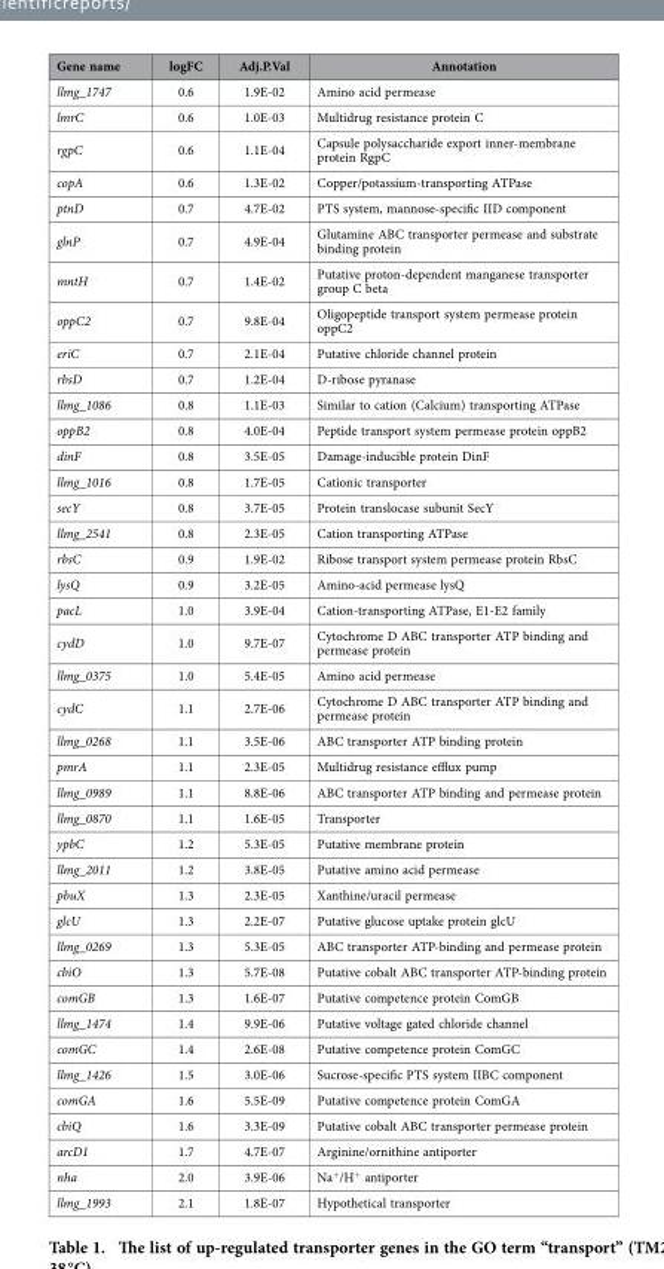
<table><thead><tr><td>Gene name</td><td>logFC</td><td>Adj.P.Val</td><td>Annotation</td></tr></thead><tbody><tr><td>llmg_1747</td><td>0.6</td><td>1.9E-02</td><td>Amino acid permease</td></tr><tr><td>lmrC</td><td>0.6</td><td>1.0E-03</td><td>Multidrug resistance protein C</td></tr><tr><td>rgpC</td><td>0.6</td><td>1.1E-04</td><td>Capsule polysaccharide export inner-membrane protein RgpC</td></tr><tr><td>copA</td><td>0.6</td><td>1.3E-02</td><td>Copper/potassium-transporting ATPase</td></tr><tr><td>ptnD</td><td>0.7</td><td>4.7E-02</td><td>PTS system, mannose-specific IID component</td></tr><tr><td>glnP</td><td>0.7</td><td>4.9E-04</td><td>Glutamine ABC transporter permease and substrate binding protein</td></tr><tr><td>mntH</td><td>0.7</td><td>1.4E-02</td><td>Putative proton-dependent manganese transporter group C beta</td></tr><tr><td>oppC2</td><td>0.7</td><td>9.8E-04</td><td>Oligopeptide transport system permease protein oppC2</td></tr><tr><td>eriC</td><td>0.7</td><td>2.1E-04</td><td>Putative chloride channel protein</td></tr><tr><td>rbsD</td><td>0.7</td><td>1.2E-04</td><td>D-ribose pyranase</td></tr><tr><td>llmg_1086</td><td>0.8</td><td>1.1E-03</td><td>Similar to cation (Calcium) transporting ATPase</td></tr><tr><td>oppB2</td><td>0.8</td><td>4.0E-04</td><td>Peptide transport system permease protein oppB2</td></tr><tr><td>dinF</td><td>0.8</td><td>3.5E-05</td><td>Damage-inducible protein DinF</td></tr><tr><td>llmg_1016</td><td>0.8</td><td>1.7E-05</td><td>Cationic transporter</td></tr><tr><td>secY</td><td>0.8</td><td>3.7E-05</td><td>Protein translocase subunit SecY</td></tr><tr><td>llmg_2541</td><td>0.8</td><td>2.3E-05</td><td>Cation transporting ATPase</td></tr><tr><td>rbsC</td><td>0.9</td><td>1.9E-02</td><td>Ribose transport system permease protein RbsC</td></tr><tr><td>lysQ</td><td>0.9</td><td>3.2E-05</td><td>Amino-acid permease lysQ</td></tr><tr><td>pacL</td><td>1.0</td><td>3.9E-04</td><td>Cation-transporting ATPase, E1-E2 family</td></tr><tr><td>cydD</td><td>1.0</td><td>9.7E-07</td><td>Cytochrome D ABC transporter ATP binding and permease protein</td></tr><tr><td>llmg_0375</td><td>1.0</td><td>5.4E-05</td><td>Amino acid permease</td></tr><tr><td>cydC</td><td>1.1</td><td>2.7E-06</td><td>Cytochrome D ABC transporter ATP binding and permease protein</td></tr><tr><td>llmg_0268</td><td>1.1</td><td>3.5E-06</td><td>ABC transporter ATP binding protein</td></tr><tr><td>pmrA</td><td>1.1</td><td>2.3E-05</td><td>Multidrug resistance efflux pump</td></tr><tr><td>llmg_0989</td><td>1.1</td><td>8.8E-06</td><td>ABC transporter ATP binding and permease protein</td></tr><tr><td>llmg_0870</td><td>1.1</td><td>1.6E-05</td><td>Transporter</td></tr><tr><td>ypbC</td><td>1.2</td><td>5.3E-05</td><td>Putative membrane protein</td></tr><tr><td>llmg_2011</td><td>1.2</td><td>3.8E-05</td><td>Putative amino acid permease</td></tr><tr><td>pbuX</td><td>1.3</td><td>2.3E-05</td><td>Xanthine/uracil permease</td></tr><tr><td>glcU</td><td>1.3</td><td>2.2E-07</td><td>Putative glucose uptake protein glcU</td></tr><tr><td>llmg_0269</td><td>1.3</td><td>5.3E-05</td><td>ABC transporter ATP-binding and permease protein</td></tr><tr><td>cbiO</td><td>1.3</td><td>5.7E-08</td><td>Putative cobalt ABC transporter ATP-binding protein</td></tr><tr><td>comGB</td><td>1.3</td><td>1.6E-07</td><td>Putative competence protein ComGB</td></tr><tr><td>llmg_1474</td><td>1.4</td><td>9.9E-06</td><td>Putative voltage gated chloride channel</td></tr><tr><td>comGC</td><td>1.4</td><td>2.6E-08</td><td>Putative competence protein ComGC</td></tr><tr><td>llmg_1426</td><td>1.5</td><td>3.0E-06</td><td>Sucrose-specific PTS system IIBC component</td></tr><tr><td>comGA</td><td>1.6</td><td>5.5E-09</td><td>Putative competence protein ComGA</td></tr><tr><td>cbiQ</td><td>1.6</td><td>3.3E-09</td><td>Putative cobalt ABC transporter permease protein</td></tr><tr><td>arcD1</td><td>1.7</td><td>4.7E-07</td><td>Arginine/ornithine antiporter</td></tr><tr><td>nha</td><td>2.0</td><td>3.9E-06</td><td>Na<sup>+</sup>/H<sup>+</sup> antiporter</td></tr><tr><td>llmg_1993</td><td>2.1</td><td>1.8E-07</td><td>Hypothetical transporter</td></tr></tbody></table>